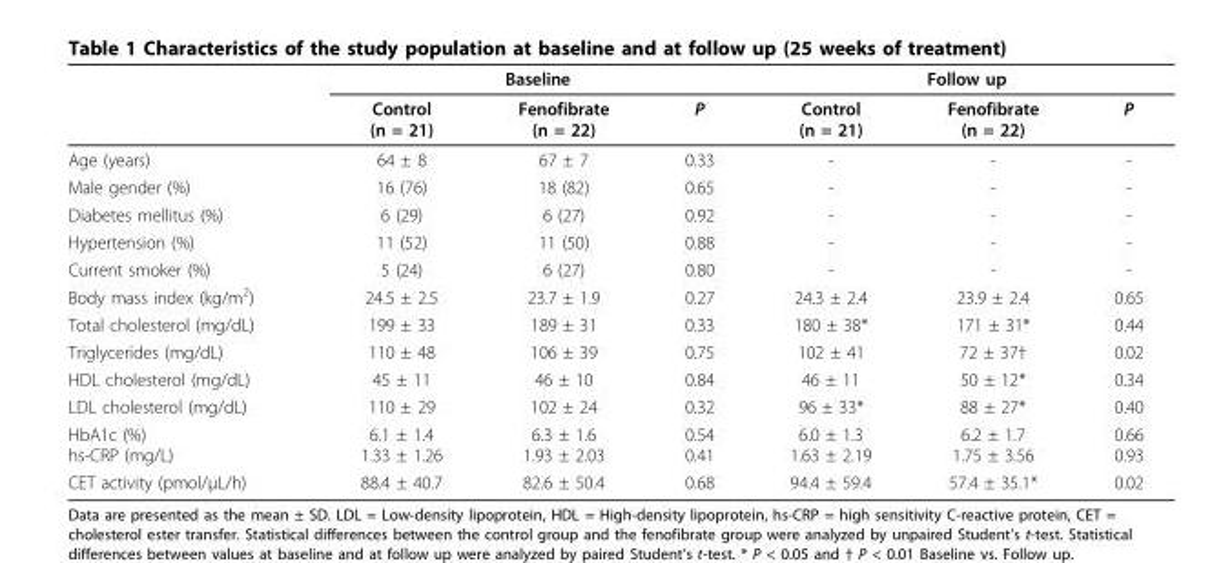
<table><thead><tr><td rowspan="2"></td><td colspan="3">Baseline</td><td colspan="3">Follow up</td></tr><tr><td>Control (n = 21)</td><td>Fenofibrate (n = 22)</td><td>P</td><td>Control (n = 21)</td><td>Fenofibrate (n = 22)</td><td>P</td></tr></thead><tbody><tr><td>Age (years)</td><td>64 ± 8</td><td>67 ± 7</td><td>0.33</td><td>-</td><td>-</td><td>-</td></tr><tr><td>Male gender (%)</td><td>16 (76)</td><td>18 (82)</td><td>0.65</td><td>-</td><td>-</td><td>-</td></tr><tr><td>Diabetes mellitus (%)</td><td>6 (29)</td><td>6 (27)</td><td>0.92</td><td>-</td><td>-</td><td>-</td></tr><tr><td>Hypertension (%)</td><td>11 (52)</td><td>11 (50)</td><td>0.88</td><td>-</td><td>-</td><td>-</td></tr><tr><td>Current smoker (%)</td><td>5 (24)</td><td>6 (27)</td><td>0.80</td><td>-</td><td>-</td><td>-</td></tr><tr><td>Body mass index (kg/m<sup>2</sup>)</td><td>24.5 ± 2.5</td><td>23.7 ± 1.9</td><td>0.27</td><td>24.3 ± 2.4</td><td>23.9 ± 2.4</td><td>0.65</td></tr><tr><td>Total cholesterol (mg/dL)</td><td>199 ± 33</td><td>189 ± 31</td><td>0.33</td><td>180 ± 38*</td><td>171 ± 31*</td><td>0.44</td></tr><tr><td>Triglycerides (mg/dL)</td><td>110 ± 48</td><td>106 ± 39</td><td>0.75</td><td>102 ± 41</td><td>72 ± 37†</td><td>0.02</td></tr><tr><td>HDL cholesterol (mg/dL)</td><td>45 ± 11</td><td>46 ± 10</td><td>0.84</td><td>46 ± 11</td><td>50 ± 12*</td><td>0.34</td></tr><tr><td>LDL cholesterol (mg/dL)</td><td>110 ± 29</td><td>102 ± 24</td><td>0.32</td><td>96 ± 33*</td><td>88 ± 27*</td><td>0.40</td></tr><tr><td>HbA1c (%) hs-CRP (mg/L)</td><td>6.1 ± 1.4 1.33 ± 1.26</td><td>6.3 ± 1.6 1.93 ± 2.03</td><td>0.54 0.41</td><td>6.0 ± 1.3 1.63 ± 2.19</td><td>6.2 ± 1.7 1.75 ± 3.56</td><td>0.66 0.93</td></tr><tr><td>CET activity (pmol/μL/h)</td><td>88.4 ± 40.7</td><td>82.6 ± 50.4</td><td>0.68</td><td>94.4 ± 59.4</td><td>57.4 ± 35.1*</td><td>0.02</td></tr></tbody></table>